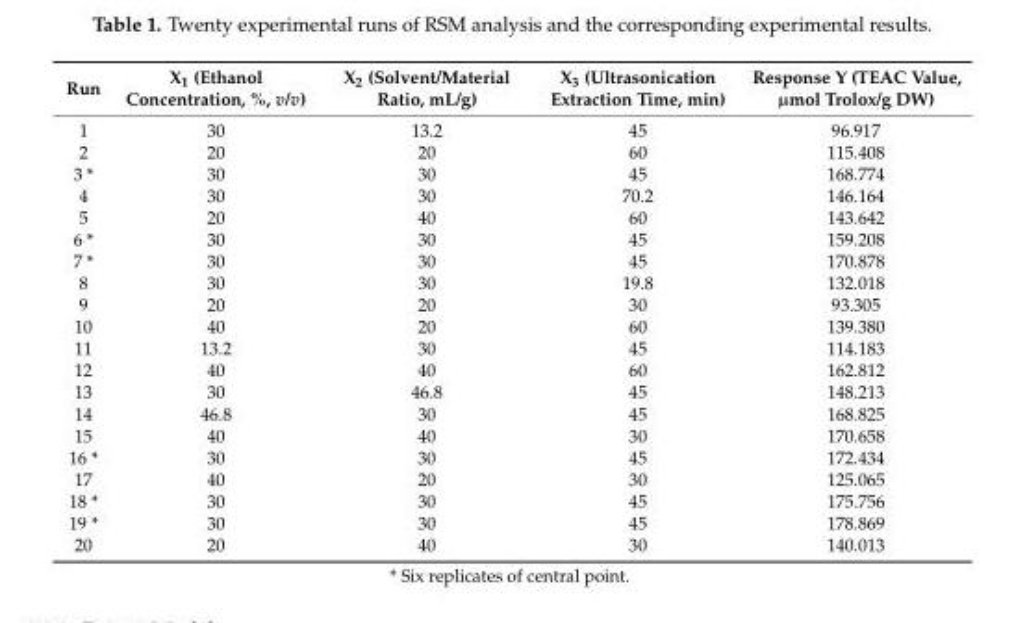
<table><thead><tr><td>Run</td><td>X<sub>1</sub> (Ethanol Concentration, %, v/v)</td><td>X<sub>2</sub> (Solvent/Material Ratio, mL/g)</td><td>X<sub>3</sub> (Ultrasonication Extraction Time, min)</td><td>Response Y (TEAC Value, µmol Trolox/g DW)</td></tr></thead><tbody><tr><td>1</td><td>30</td><td>13.2</td><td>45</td><td>96.917</td></tr><tr><td>2</td><td>20</td><td>20</td><td>60</td><td>115.408</td></tr><tr><td>3 *</td><td>30</td><td>30</td><td>45</td><td>168.774</td></tr><tr><td>4</td><td>30</td><td>30</td><td>70.2</td><td>146.164</td></tr><tr><td>5</td><td>20</td><td>40</td><td>60</td><td>143.642</td></tr><tr><td>6 *</td><td>30</td><td>30</td><td>45</td><td>159.208</td></tr><tr><td>7 *</td><td>30</td><td>30</td><td>45</td><td>170.878</td></tr><tr><td>8</td><td>30</td><td>30</td><td>19.8</td><td>132.018</td></tr><tr><td>9</td><td>20</td><td>20</td><td>30</td><td>93.305</td></tr><tr><td>10</td><td>40</td><td>20</td><td>60</td><td>139.380</td></tr><tr><td>11</td><td>13.2</td><td>30</td><td>45</td><td>114.183</td></tr><tr><td>12</td><td>40</td><td>40</td><td>60</td><td>162.812</td></tr><tr><td>13</td><td>30</td><td>46.8</td><td>45</td><td>148.213</td></tr><tr><td>14</td><td>46.8</td><td>30</td><td>45</td><td>168.825</td></tr><tr><td>15</td><td>40</td><td>40</td><td>30</td><td>170.658</td></tr><tr><td>16 *</td><td>30</td><td>30</td><td>45</td><td>172.434</td></tr><tr><td>17</td><td>40</td><td>20</td><td>30</td><td>125.065</td></tr><tr><td>18 *</td><td>30</td><td>30</td><td>45</td><td>175.756</td></tr><tr><td>19 *</td><td>30</td><td>30</td><td>45</td><td>178.869</td></tr><tr><td>20</td><td>20</td><td>40</td><td>30</td><td>140.013</td></tr></tbody></table>